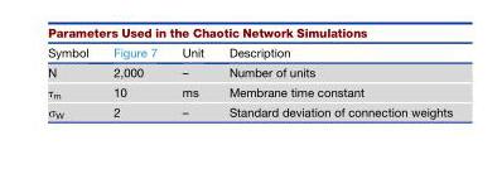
<table><thead><tr><td>Symbol</td><td>Figure 7</td><td>Unit</td><td>Description</td></tr></thead><tbody><tr><td>N</td><td>2,000</td><td>–</td><td>Number of units</td></tr><tr><td>τ<sub>m</sub></td><td>10</td><td>ms</td><td>Membrane time constant</td></tr><tr><td>σ<sub>W</sub></td><td>2</td><td>–</td><td>Standard deviation of connection weights</td></tr></tbody></table>